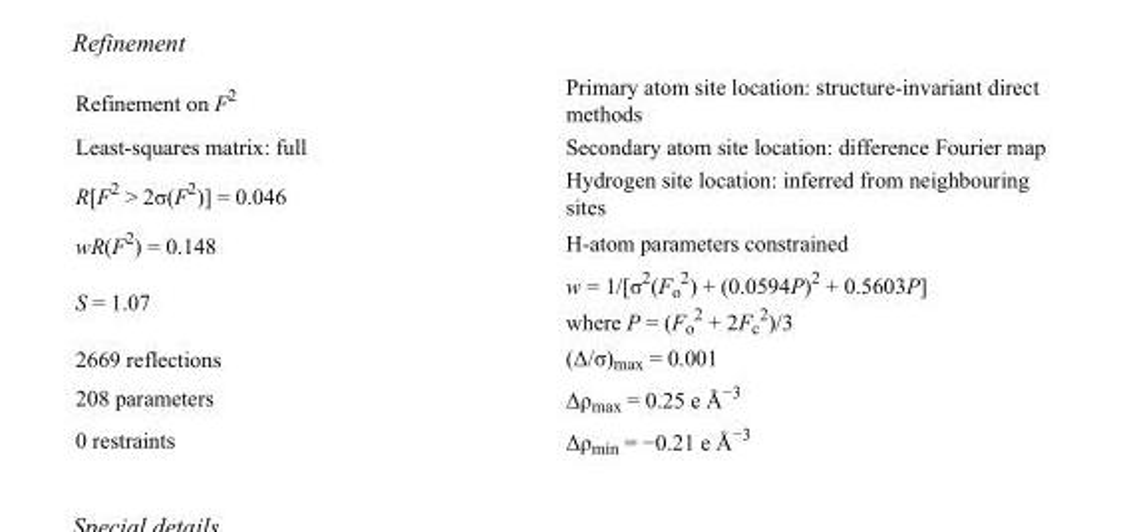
<table><tbody><tr><td>Refinement on F<sup>2</sup></td><td>Primary atom site location: structure-invariant direct methods</td></tr><tr><td>Least-squares matrix: full</td><td>Secondary atom site location: difference Fourier map</td></tr><tr><td>R[F<sup>2</sup> &gt; 2σ(F<sup>2</sup>)] = 0.046</td><td>Hydrogen site location: inferred from neighbouring sites</td></tr><tr><td>wR(F<sup>2</sup>) = 0.148</td><td>H-atom parameters constrained</td></tr><tr><td>S = 1.07</td><td>w = 1/[σ<sup>2</sup>(F<sub>o</sub> <sup>2</sup>) + (0.0594P)<sup>2</sup> + 0.5603P] where P = (F<sub>o</sub> <sup>2</sup> + 2F<sub>c</sub> <sup>2</sup>)/3</td></tr><tr><td>2669 reflections</td><td>(Δ/σ)<sub>max</sub> = 0.001</td></tr><tr><td>208 parameters</td><td>Δρ<sub>max</sub> = 0.25 e Å<sup>−3</sup></td></tr><tr><td>0 restraints</td><td>Δρ<sub>min</sub> = −0.21 e Å<sup>−3</sup></td></tr></tbody></table>